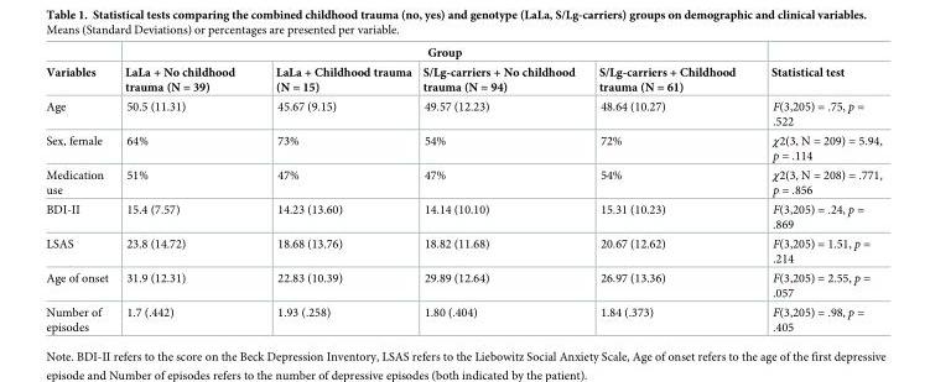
<table><thead><tr><td rowspan="2">Variables</td><td colspan="4">Group</td><td rowspan="2">Statistical test</td></tr><tr><td>LaLa + No childhood trauma (N = 39)</td><td>LaLa + Childhood trauma (N = 15)</td><td>S/Lg-carriers + No childhood trauma (N = 94)</td><td>S/Lg-carriers + Childhood trauma (N = 61)</td></tr></thead><tbody><tr><td>Age</td><td>50.5 (11.31)</td><td>45.67 (9.15)</td><td>49.57 (12.23)</td><td>48.64 (10.27)</td><td>F(3,205) = .75, p = .522</td></tr><tr><td>Sex, female</td><td>64%</td><td>73%</td><td>54%</td><td>72%</td><td>χ2(3, N = 209) = 5.94, p = .114</td></tr><tr><td>Medication use</td><td>51%</td><td>47%</td><td>47%</td><td>54%</td><td>χ2(3, N = 208) = .771, p = .856</td></tr><tr><td>BDI-II</td><td>15.4 (7.57)</td><td>14.23 (13.60)</td><td>14.14 (10.10)</td><td>15.31 (10.23)</td><td>F(3,205) = .24, p = .869</td></tr><tr><td>LSAS</td><td>23.8 (14.72)</td><td>18.68 (13.76)</td><td>18.82 (11.68)</td><td>20.67 (12.62)</td><td>F(3,205) = 1.51, p = .214</td></tr><tr><td>Age of onset</td><td>31.9 (12.31)</td><td>22.83 (10.39)</td><td>29.89 (12.64)</td><td>26.97 (13.36)</td><td>F(3,205) = 2.55, p = .057</td></tr><tr><td>Number of episodes</td><td>1.7 (.442)</td><td>1.93 (.258)</td><td>1.80 (.404)</td><td>1.84 (.373)</td><td>F(3,205) = .98, p = .405</td></tr></tbody></table>